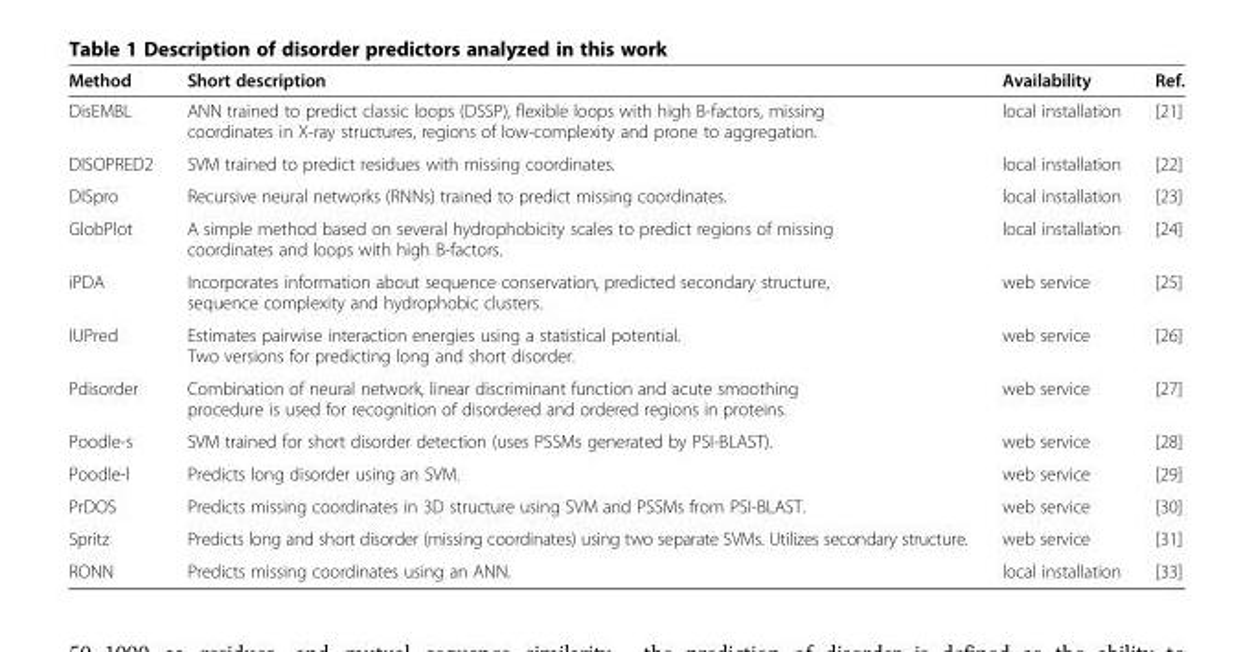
<table><thead><tr><td>Method</td><td>Short description</td><td>Availability</td><td>Ref.</td></tr></thead><tbody><tr><td>DisEMBL</td><td>ANN trained to predict classic loops (DSSP), flexible loops with high B-factors, missing coordinates in X-ray structures, regions of low-complexity and prone to aggregation.</td><td>local installation</td><td>[21]</td></tr><tr><td>DISOPRED2</td><td>SVM trained to predict residues with missing coordinates.</td><td>local installation</td><td>[22]</td></tr><tr><td>DISpro</td><td>Recursive neural networks (RNNs) trained to predict missing coordinates.</td><td>local installation</td><td>[23]</td></tr><tr><td>GlobPlot</td><td>A simple method based on several hydrophobicity scales to predict regions of missing coordinates and loops with high B-factors.</td><td>local installation</td><td>[24]</td></tr><tr><td>iPDA</td><td>Incorporates information about sequence conservation, predicted secondary structure, sequence complexity and hydrophobic clusters.</td><td>web service</td><td>[25]</td></tr><tr><td>IUPred</td><td>Estimates pairwise interaction energies using a statistical potential. Two versions for predicting long and short disorder.</td><td>web service</td><td>[26]</td></tr><tr><td>Pdisorder</td><td>Combination of neural network, linear discriminant function and acute smoothing procedure is used for recognition of disordered and ordered regions in proteins.</td><td>web service</td><td>[27]</td></tr><tr><td>Poodle-s</td><td>SVM trained for short disorder detection (uses PSSMs generated by PSI-BLAST).</td><td>web service</td><td>[28]</td></tr><tr><td>Poodle-l</td><td>Predicts long disorder using an SVM.</td><td>web service</td><td>[29]</td></tr><tr><td>PrDOS</td><td>Predicts missing coordinates in 3D structure using SVM and PSSMs from PSI-BLAST.</td><td>web service</td><td>[30]</td></tr><tr><td>Spritz</td><td>Predicts long and short disorder (missing coordinates) using two separate SVMs. Utilizes secondary structure.</td><td>web service</td><td>[31]</td></tr><tr><td>RONN</td><td>Predicts missing coordinates using an ANN.</td><td>local installation</td><td>[33]</td></tr></tbody></table>